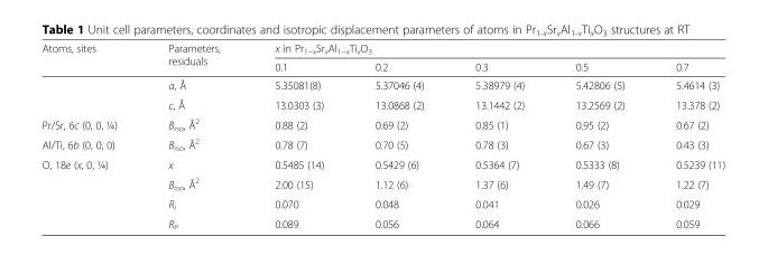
<table><thead><tr><td rowspan="2">Atoms, sites</td><td rowspan="2">Parameters, residuals</td><td colspan="5">x in Pr<sub>1−x</sub>Sr<sub>x</sub>Al<sub>1−x</sub>Ti<sub>x</sub>O<sub>3</sub></td></tr><tr><td>0.1</td><td>0.2</td><td>0.3</td><td>0.5</td><td>0.7</td></tr></thead><tbody><tr><td rowspan="2"></td><td>a, Å</td><td>5.35081(8)</td><td>5.37046 (4)</td><td>5.38979 (4)</td><td>5.42806 (5)</td><td>5.4614 (3)</td></tr><tr><td>c, Å</td><td>13.0303 (3)</td><td>13.0868 (2)</td><td>13.1442 (2)</td><td>13.2569 (2)</td><td>13.378 (2)</td></tr><tr><td>Pr/Sr, 6c (0, 0, ¼)</td><td>B<sub>iso</sub>, Å<sup>2</sup></td><td>0.88 (2)</td><td>0.69 (2)</td><td>0.85 (1)</td><td>0.95 (2)</td><td>0.67 (2)</td></tr><tr><td>Al/Ti, 6b (0, 0, 0)</td><td>B<sub>iso</sub>, Å<sup>2</sup></td><td>0.78 (7)</td><td>0.70 (5)</td><td>0.78 (3)</td><td>0.67 (3)</td><td>0.43 (3)</td></tr><tr><td rowspan="4">O, 18e (x, 0, ¼)</td><td>x</td><td>0.5485 (14)</td><td>0.5429 (6)</td><td>0.5364 (7)</td><td>0.5333 (8)</td><td>0.5239 (11)</td></tr><tr><td>B<sub>iso</sub>, Å<sup>2</sup></td><td>2.00 (15)</td><td>1.12 (6)</td><td>1.37 (6)</td><td>1.49 (7)</td><td>1.22 (7)</td></tr><tr><td>R<sub>I</sub></td><td>0.070</td><td>0.048</td><td>0.041</td><td>0.026</td><td>0.029</td></tr><tr><td>R<sub>P</sub></td><td>0.089</td><td>0.056</td><td>0.064</td><td>0.066</td><td>0.059</td></tr></tbody></table>